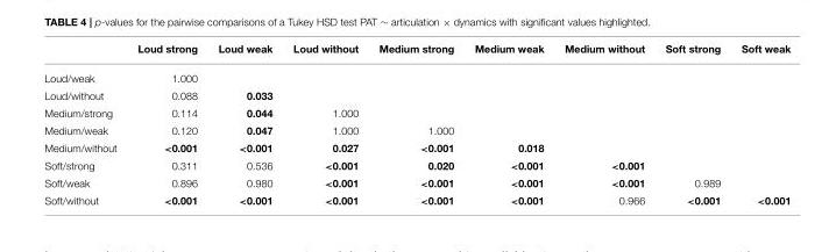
<table><thead><tr><td></td><td>Loud strong</td><td>Loud weak</td><td>Loud without</td><td>Medium strong</td><td>Medium weak</td><td>Medium without</td><td>Soft strong</td><td>Soft weak</td></tr></thead><tbody><tr><td>Loud/weak</td><td>1.000</td><td></td><td></td><td></td><td></td><td></td><td></td><td></td></tr><tr><td>Loud/without</td><td>0.088</td><td>0.033</td><td></td><td></td><td></td><td></td><td></td><td></td></tr><tr><td>Medium/strong</td><td>0.114</td><td>0.044</td><td>1.000</td><td></td><td></td><td></td><td></td><td></td></tr><tr><td>Medium/weak</td><td>0.120</td><td>0.047</td><td>1.000</td><td>1.000</td><td></td><td></td><td></td><td></td></tr><tr><td>Medium/without</td><td>&lt;0.001</td><td>&lt;0.001</td><td>0.027</td><td>&lt;0.001</td><td>0.018</td><td></td><td></td><td></td></tr><tr><td>Soft/strong</td><td>0.311</td><td>0.536</td><td>&lt;0.001</td><td>0.020</td><td>&lt;0.001</td><td>&lt;0.001</td><td></td><td></td></tr><tr><td>Soft/weak</td><td>0.896</td><td>0.980</td><td>&lt;0.001</td><td>&lt;0.001</td><td>&lt;0.001</td><td>&lt;0.001</td><td>0.989</td><td></td></tr><tr><td>Soft/without</td><td>&lt;0.001</td><td>&lt;0.001</td><td>&lt;0.001</td><td>&lt;0.001</td><td>&lt;0.001</td><td>0.966</td><td>&lt;0.001</td><td>&lt;0.001</td></tr></tbody></table>